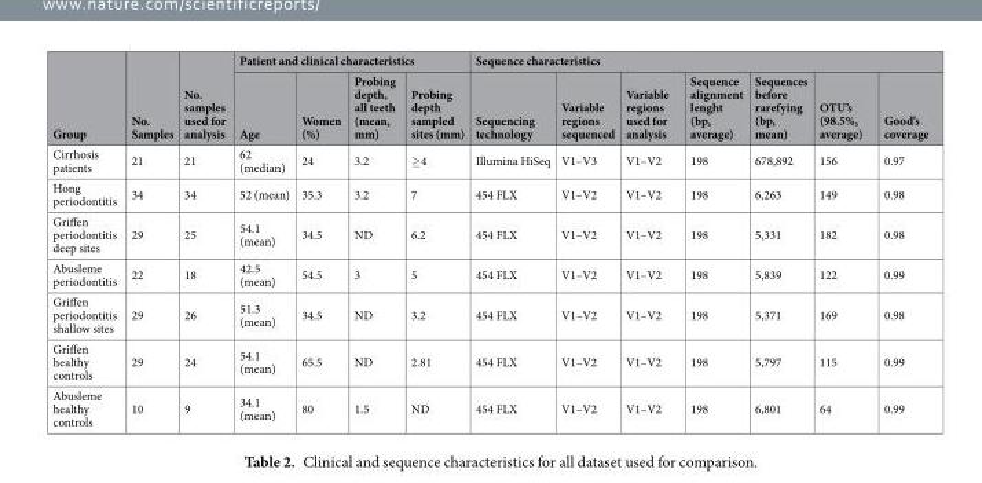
<table><thead><tr><td rowspan="2">Group</td><td rowspan="2">No. Samples</td><td rowspan="2">No. samples used for analysis</td><td colspan="4">Patient and clinical characteristics</td><td colspan="7">Sequence characteristics</td></tr><tr><td>Age</td><td>Women (%)</td><td>Probing depth, all teeth (mean, mm)</td><td>Probing depth sampled sites (mm)</td><td>Sequencing technology</td><td>Variable regions sequenced</td><td>Variable regions used for analysis</td><td>Sequence alignment lenght (bp, average)</td><td>Sequences before rarefying (bp, mean)</td><td>OTU’s (98.5%, average)</td><td>Good’s coverage</td></tr></thead><tbody><tr><td>Cirrhosis patients</td><td>21</td><td>21</td><td>62 (median)</td><td>24</td><td>3.2</td><td>≥4</td><td>Illumina HiSeq</td><td>V1–V3</td><td>V1–V2</td><td>198</td><td>678,892</td><td>156</td><td>0.97</td></tr><tr><td>Hong periodontitis</td><td>34</td><td>34</td><td>52 (mean)</td><td>35.3</td><td>3.2</td><td>7</td><td>454 FLX</td><td>V1–V2</td><td>V1–V2</td><td>198</td><td>6,263</td><td>149</td><td>0.98</td></tr><tr><td>Griffen periodontitis deep sites</td><td>29</td><td>25</td><td>54.1 (mean)</td><td>34.5</td><td>ND</td><td>6.2</td><td>454 FLX</td><td>V1–V2</td><td>V1–V2</td><td>198</td><td>5,331</td><td>182</td><td>0.98</td></tr><tr><td>Abusleme periodontitis</td><td>22</td><td>18</td><td>42.5 (mean)</td><td>54.5</td><td>3</td><td>5</td><td>454 FLX</td><td>V1–V2</td><td>V1–V2</td><td>198</td><td>5,839</td><td>122</td><td>0.99</td></tr><tr><td>Griffen periodontitis shallow sites</td><td>29</td><td>26</td><td>51.3 (mean)</td><td>34.5</td><td>ND</td><td>3.2</td><td>454 FLX</td><td>V1–V2</td><td>V1–V2</td><td>198</td><td>5,371</td><td>169</td><td>0.98</td></tr><tr><td>Griffen healthy controls</td><td>29</td><td>24</td><td>54.1 (mean)</td><td>65.5</td><td>ND</td><td>2.81</td><td>454 FLX</td><td>V1–V2</td><td>V1–V2</td><td>198</td><td>5,797</td><td>115</td><td>0.99</td></tr><tr><td>Abusleme healthy controls</td><td>10</td><td>9</td><td>34.1 (mean)</td><td>80</td><td>1.5</td><td>ND</td><td>454 FLX</td><td>V1–V2</td><td>V1–V2</td><td>198</td><td>6,801</td><td>64</td><td>0.99</td></tr></tbody></table>